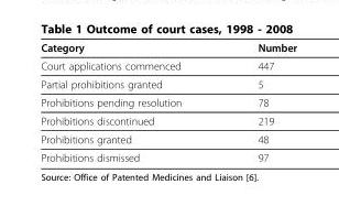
<table><thead><tr><td>Category</td><td>Number</td></tr></thead><tbody><tr><td>Court applications commenced</td><td>447</td></tr><tr><td>Partial prohibitions granted</td><td>5</td></tr><tr><td>Prohibitions pending resolution</td><td>78</td></tr><tr><td>Prohibitions discontinued</td><td>219</td></tr><tr><td>Prohibitions granted</td><td>48</td></tr><tr><td>Prohibitions dismissed</td><td>97</td></tr></tbody></table>